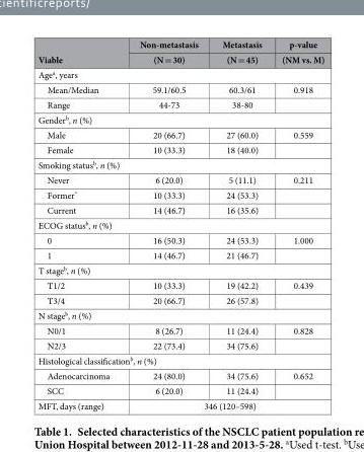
<table><thead><tr><td rowspan="2">Viable</td><td rowspan="2">Non-metastasis (N = 30)</td><td rowspan="2">Metastasis (N = 45)</td><td rowspan="2">p-value (NM vs. M)</td></tr><tr></tr></thead><tbody><tr><td colspan="4">Age<sup>a</sup>, years</td></tr><tr><td>Mean/Median</td><td>59.1/60.5</td><td>60.3/61</td><td>0.918</td></tr><tr><td>Range</td><td>44-73</td><td>38-80</td><td></td></tr><tr><td colspan="4">Gender<sup>b</sup>, n (%)</td></tr><tr><td>Male</td><td>20 (66.7)</td><td>27 (60.0)</td><td>0.559</td></tr><tr><td>Female</td><td>10 (33.3)</td><td>18 (40.0)</td><td></td></tr><tr><td colspan="4">Smoking status<sup>b</sup>, n (%)</td></tr><tr><td>Never</td><td>6 (20.0)</td><td>5 (11.1)</td><td>0.211</td></tr><tr><td>Former*</td><td>10 (33.3)</td><td>24 (53.3)</td><td></td></tr><tr><td>Current</td><td>14 (46.7)</td><td>16 (35.6)</td><td></td></tr><tr><td colspan="4">ECOG status<sup>b</sup>, n (%)</td></tr><tr><td>0</td><td>16 (50.3)</td><td>24 (53.3)</td><td>1.000</td></tr><tr><td>1</td><td>14 (46.7)</td><td>21 (46.7)</td><td></td></tr><tr><td colspan="4">T stage<sup>b</sup>, n (%)</td></tr><tr><td>T1/2</td><td>10 (33.3)</td><td>19 (42.2)</td><td>0.439</td></tr><tr><td>T3/4</td><td>20 (66.7)</td><td>26 (57.8)</td><td></td></tr><tr><td colspan="4">N stage<sup>b</sup>, n (%)</td></tr><tr><td>N0/1</td><td>8 (26.7)</td><td>11 (24.4)</td><td>0.828</td></tr><tr><td>N2/3</td><td>22 (73.4)</td><td>34 (75.6)</td><td></td></tr><tr><td colspan="4">Histological classification<sup>b</sup>, n (%)</td></tr><tr><td>Adenocarcinoma</td><td>24 (80.0)</td><td>34 (75.6)</td><td>0.652</td></tr><tr><td>SCC</td><td>6 (20.0)</td><td>11 (24.4)</td><td></td></tr><tr><td>MFT, days (range)</td><td colspan="3">346 (120–598)</td></tr></tbody></table>